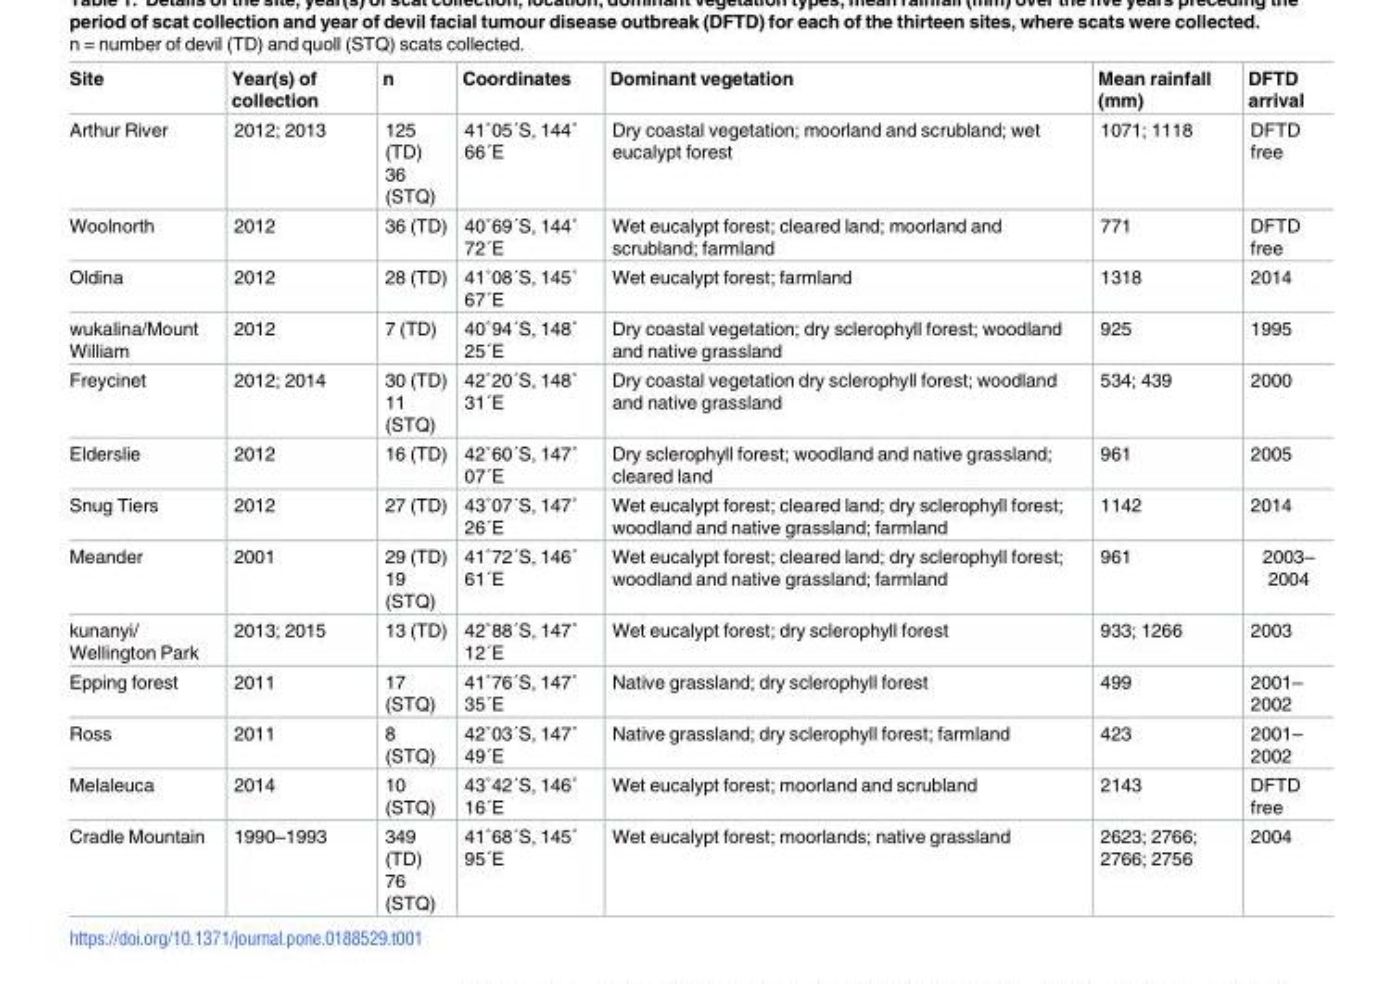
<table><thead><tr><td>Site</td><td>Year(s) of collection</td><td>n</td><td>Coordinates</td><td>Dominant vegetation</td><td>Mean rainfall (mm)</td><td>DFTD arrival</td></tr></thead><tbody><tr><td>Arthur River</td><td>2012; 2013</td><td>125 (TD) 36 (STQ)</td><td>41˚05´S, 144˚ 66´E</td><td>Dry coastal vegetation; moorland and scrubland; wet eucalypt forest</td><td>1071; 1118</td><td>DFTD free</td></tr><tr><td>Woolnorth</td><td>2012</td><td>36 (TD)</td><td>40˚69´S, 144˚ 72´E</td><td>Wet eucalypt forest; cleared land; moorland and scrubland; farmland</td><td>771</td><td>DFTD free</td></tr><tr><td>Oldina</td><td>2012</td><td>28 (TD)</td><td>41˚08´S, 145˚ 67´E</td><td>Wet eucalypt forest; farmland</td><td>1318</td><td>2014</td></tr><tr><td>wukalina/Mount William</td><td>2012</td><td>7 (TD)</td><td>40˚94´S, 148˚ 25´E</td><td>Dry coastal vegetation; dry sclerophyll forest; woodland and native grassland</td><td>925</td><td>1995</td></tr><tr><td>Freycinet</td><td>2012; 2014</td><td>30 (TD) 11 (STQ)</td><td>42˚20´S, 148˚ 31´E</td><td>Dry coastal vegetation dry sclerophyll forest; woodland and native grassland</td><td>534; 439</td><td>2000</td></tr><tr><td>Elderslie</td><td>2012</td><td>16 (TD)</td><td>42˚60´S, 147˚ 07´E</td><td>Dry sclerophyll forest; woodland and native grassland; cleared land</td><td>961</td><td>2005</td></tr><tr><td>Snug Tiers</td><td>2012</td><td>27 (TD)</td><td>43˚07´S, 147˚ 26´E</td><td>Wet eucalypt forest; cleared land; dry sclerophyll forest; woodland and native grassland; farmland</td><td>1142</td><td>2014</td></tr><tr><td>Meander</td><td>2001</td><td>29 (TD) 19 (STQ)</td><td>41˚72´S, 146˚ 61´E</td><td>Wet eucalypt forest; cleared land; dry sclerophyll forest; woodland and native grassland; farmland</td><td>961</td><td>2003– 2004</td></tr><tr><td>kunanyi/ Wellington Park</td><td>2013; 2015</td><td>13 (TD)</td><td>42˚88´S, 147˚ 12´E</td><td>Wet eucalypt forest; dry sclerophyll forest</td><td>933; 1266</td><td>2003</td></tr><tr><td>Epping forest</td><td>2011</td><td>17 (STQ)</td><td>41˚76´S, 147˚ 35´E</td><td>Native grassland; dry sclerophyll forest</td><td>499</td><td>2001– 2002</td></tr><tr><td>Ross</td><td>2011</td><td>8 (STQ)</td><td>42˚03´S, 147˚ 49´E</td><td>Native grassland; dry sclerophyll forest; farmland</td><td>423</td><td>2001– 2002</td></tr><tr><td>Melaleuca</td><td>2014</td><td>10 (STQ)</td><td>43˚42´S, 146˚ 16´E</td><td>Wet eucalypt forest; moorland and scrubland</td><td>2143</td><td>DFTD free</td></tr><tr><td>Cradle Mountain</td><td>1990–1993</td><td>349 (TD) 76 (STQ)</td><td>41˚68´S, 145˚ 95´E</td><td>Wet eucalypt forest; moorlands; native grassland</td><td>2623; 2766; 2766; 2756</td><td>2004</td></tr></tbody></table>